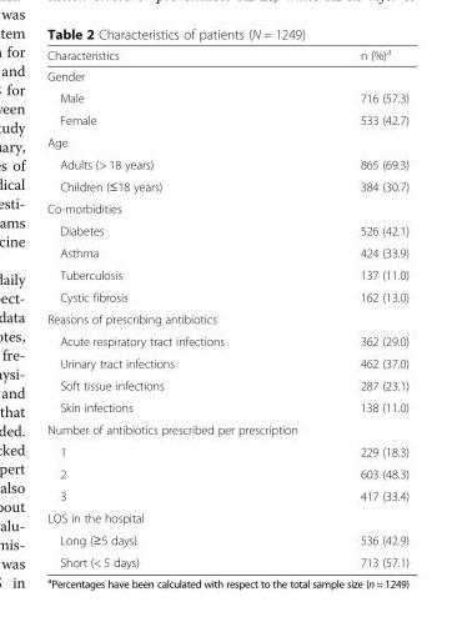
<table><thead><tr><td>Characteristics</td><td>n (%)<sup>a</sup></td></tr></thead><tbody><tr><td colspan="2">Gender</td></tr><tr><td>Male</td><td>716 (57.3)</td></tr><tr><td>Female</td><td>533 (42.7)</td></tr><tr><td colspan="2">Age</td></tr><tr><td>Adults (&gt; 18 years)</td><td>865 (69.3)</td></tr><tr><td>Children (≤18 years)</td><td>384 (30.7)</td></tr><tr><td colspan="2">Co-morbidities</td></tr><tr><td>Diabetes</td><td>526 (42.1)</td></tr><tr><td>Asthma</td><td>424 (33.9)</td></tr><tr><td>Tuberculosis</td><td>137 (11.0)</td></tr><tr><td>Cystic fibrosis</td><td>162 (13.0)</td></tr><tr><td colspan="2">Reasons of prescribing antibiotics</td></tr><tr><td>Acute respiratory tract infections</td><td>362 (29.0)</td></tr><tr><td>Urinary tract infections</td><td>462 (37.0)</td></tr><tr><td>Soft tissue infections</td><td>287 (23.1)</td></tr><tr><td>Skin infections</td><td>138 (11.0)</td></tr><tr><td colspan="2">Number of antibiotics prescribed per prescription</td></tr><tr><td>1</td><td>229 (18.3)</td></tr><tr><td>2</td><td>603 (48.3)</td></tr><tr><td>3</td><td>417 (33.4)</td></tr><tr><td colspan="2">LOS in the hospital</td></tr><tr><td>Long (≥5 days)</td><td>536 (42.9)</td></tr><tr><td>Short (&lt; 5 days)</td><td>713 (57.1)</td></tr></tbody></table>